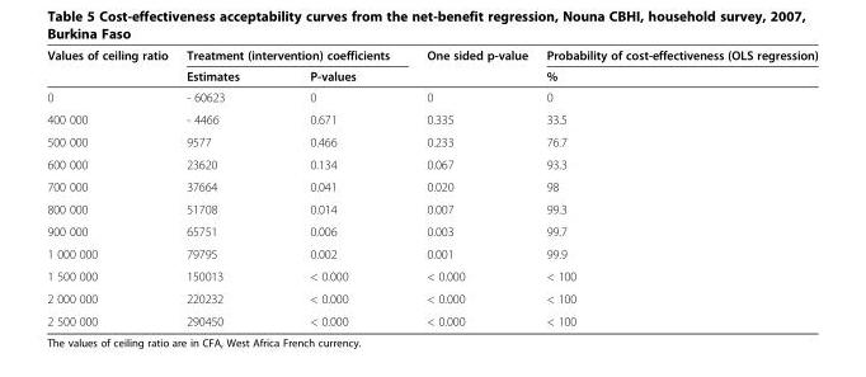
<table><thead><tr><td rowspan="2">Values of ceiling ratio</td><td colspan="2">Treatment (intervention) coefficients</td><td rowspan="2">One sided p-value</td><td rowspan="2">Probability of cost-effectiveness (OLS regression) %</td></tr><tr><td>Estimates</td><td>P-values</td></tr></thead><tbody><tr><td>0</td><td>- 60623</td><td>0</td><td>0</td><td>0</td></tr><tr><td>400 000</td><td>- 4466</td><td>0.671</td><td>0.335</td><td>33.5</td></tr><tr><td>500 000</td><td>9577</td><td>0.466</td><td>0.233</td><td>76.7</td></tr><tr><td>600 000</td><td>23620</td><td>0.134</td><td>0.067</td><td>93.3</td></tr><tr><td>700 000</td><td>37664</td><td>0.041</td><td>0.020</td><td>98</td></tr><tr><td>800 000</td><td>51708</td><td>0.014</td><td>0.007</td><td>99.3</td></tr><tr><td>900 000</td><td>65751</td><td>0.006</td><td>0.003</td><td>99.7</td></tr><tr><td>1 000 000</td><td>79795</td><td>0.002</td><td>0.001</td><td>99.9</td></tr><tr><td>1 500 000</td><td>150013</td><td>&lt; 0.000</td><td>&lt; 0.000</td><td>&lt; 100</td></tr><tr><td>2 000 000</td><td>220232</td><td>&lt; 0.000</td><td>&lt; 0.000</td><td>&lt; 100</td></tr><tr><td>2 500 000</td><td>290450</td><td>&lt; 0.000</td><td>&lt; 0.000</td><td>&lt; 100</td></tr></tbody></table>